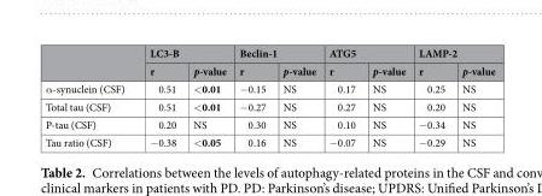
<table><thead><tr><td rowspan="2"></td><td colspan="2">LC3-B</td><td colspan="2">Beclin-1</td><td colspan="2">ATG5</td><td colspan="2">LAMP-2</td></tr><tr><td>r</td><td>p-value</td><td>r</td><td>p-value</td><td>r</td><td>p-value</td><td>r</td><td>p-value</td></tr></thead><tbody><tr><td>α-synuclein (CSF)</td><td>0.51</td><td>&lt;0.01</td><td>−0.15</td><td>NS</td><td>0.17</td><td>NS</td><td>0.25</td><td>NS</td></tr><tr><td>Total tau (CSF)</td><td>0.51</td><td>&lt;0.01</td><td>−0.27</td><td>NS</td><td>0.27</td><td>NS</td><td>0.20</td><td>NS</td></tr><tr><td>P-tau (CSF)</td><td>0.20</td><td>NS</td><td>0.30</td><td>NS</td><td>0.10</td><td>NS</td><td>−0.34</td><td>NS</td></tr><tr><td>Tau ratio (CSF)</td><td>−0.38</td><td>&lt;0.05</td><td>0.16</td><td>NS</td><td>−0.07</td><td>NS</td><td>−0.29</td><td>NS</td></tr></tbody></table>